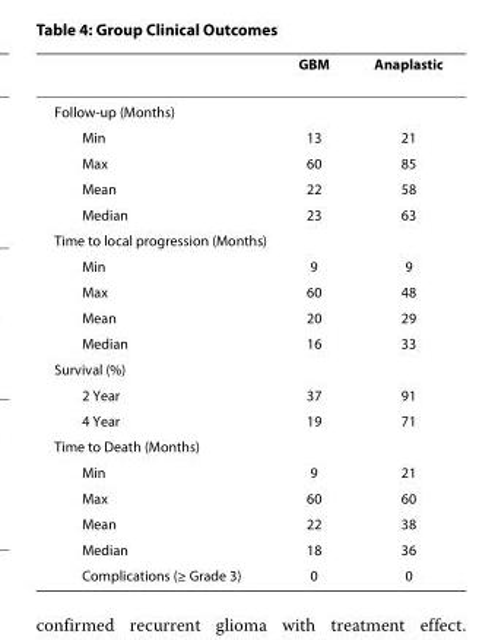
<table><thead><tr><td></td><td>GBM</td><td>Anaplastic</td></tr></thead><tbody><tr><td colspan="3">Follow-up (Months)</td></tr><tr><td>Min</td><td>13</td><td>21</td></tr><tr><td>Max</td><td>60</td><td>85</td></tr><tr><td>Mean</td><td>22</td><td>58</td></tr><tr><td>Median</td><td>23</td><td>63</td></tr><tr><td colspan="3">Time to local progression (Months)</td></tr><tr><td>Min</td><td>9</td><td>9</td></tr><tr><td>Max</td><td>60</td><td>48</td></tr><tr><td>Mean</td><td>20</td><td>29</td></tr><tr><td>Median</td><td>16</td><td>33</td></tr><tr><td colspan="3">Survival (%)</td></tr><tr><td>2 Year</td><td>37</td><td>91</td></tr><tr><td>4 Year</td><td>19</td><td>71</td></tr><tr><td colspan="3">Time to Death (Months)</td></tr><tr><td>Min</td><td>9</td><td>21</td></tr><tr><td>Max</td><td>60</td><td>60</td></tr><tr><td>Mean</td><td>22</td><td>38</td></tr><tr><td>Median</td><td>18</td><td>36</td></tr><tr><td>Complications (≥ Grade 3)</td><td>0</td><td>0</td></tr></tbody></table>